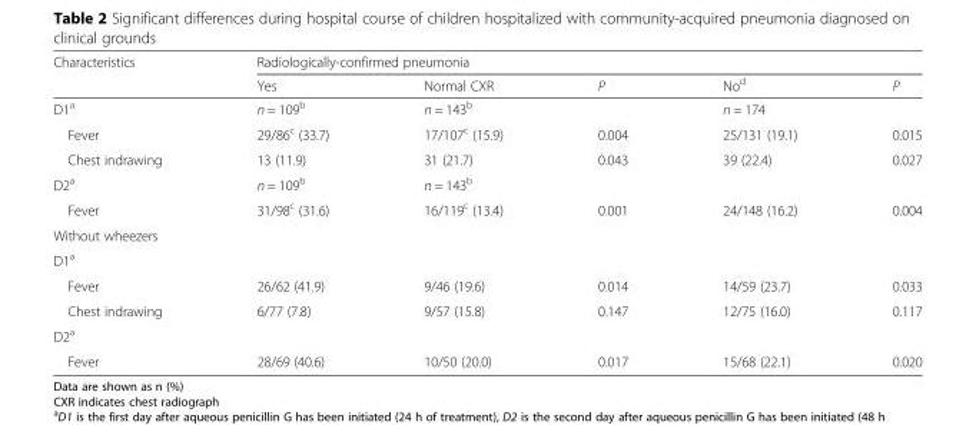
<table><thead><tr><td rowspan="2">Characteristics</td><td colspan="5">Radiologically-confirmed pneumonia</td></tr><tr><td>Yes</td><td>Normal CXR</td><td>P</td><td>No<sup>d</sup></td><td>P</td></tr></thead><tbody><tr><td>D1<sup>a</sup></td><td>n = 109<sup>b</sup></td><td>n = 143<sup>b</sup></td><td></td><td>n = 174</td><td></td></tr><tr><td>Fever</td><td>29/86<sup>c</sup> (33.7)</td><td>17/107<sup>c</sup> (15.9)</td><td>0.004</td><td>25/131 (19.1)</td><td>0.015</td></tr><tr><td>Chest indrawing</td><td>13 (11.9)</td><td>31 (21.7)</td><td>0.043</td><td>39 (22.4)</td><td>0.027</td></tr><tr><td>D2<sup>a</sup></td><td>n = 109<sup>b</sup></td><td>n = 143<sup>b</sup></td><td></td><td></td><td></td></tr><tr><td>Fever</td><td>31/98<sup>c</sup> (31.6)</td><td>16/119<sup>c</sup> (13.4)</td><td>0.001</td><td>24/148 (16.2)</td><td>0.004</td></tr><tr><td colspan="6">Without wheezers</td></tr><tr><td colspan="6">D1<sup>a</sup></td></tr><tr><td>Fever</td><td>26/62 (41.9)</td><td>9/46 (19.6)</td><td>0.014</td><td>14/59 (23.7)</td><td>0.033</td></tr><tr><td>Chest indrawing</td><td>6/77 (7.8)</td><td>9/57 (15.8)</td><td>0.147</td><td>12/75 (16.0)</td><td>0.117</td></tr><tr><td colspan="6">D2<sup>a</sup></td></tr><tr><td>Fever</td><td>28/69 (40.6)</td><td>10/50 (20.0)</td><td>0.017</td><td>15/68 (22.1)</td><td>0.020</td></tr></tbody></table>